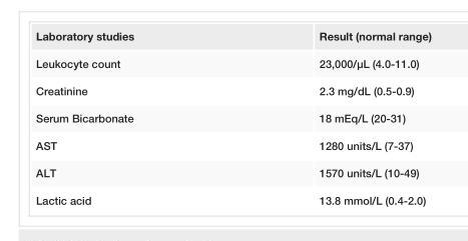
<table><tbody><tr><td>Laboratory studies</td><td>Result (normal range)</td></tr><tr><td>Leukocyte count</td><td>23,000/µL (4.0-11.0)</td></tr><tr><td>Creatinine</td><td>2.3 mg/dL (0.5-0.9)</td></tr><tr><td>Serum Bicarbonate</td><td>18 mEq/L (20-31)</td></tr><tr><td>AST</td><td>1280 units/L (7-37)</td></tr><tr><td>ALT</td><td>1570 units/L (10-49)</td></tr><tr><td>Lactic acid</td><td>13.8 mmol/L (0.4-2.0)</td></tr></tbody></table>